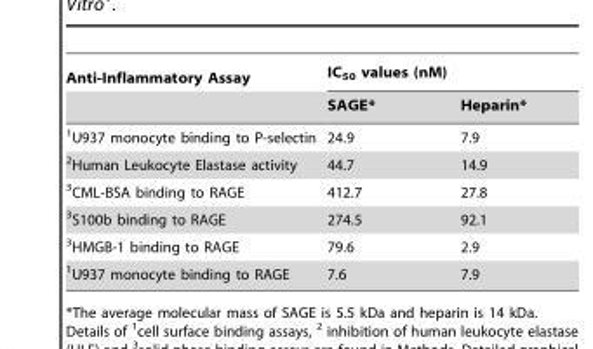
<table><thead><tr><td rowspan="2">Anti-Inflammatory Assay</td><td colspan="2">IC<sub>50</sub> values (nM)</td></tr><tr><td>SAGE*</td><td>Heparin*</td></tr></thead><tbody><tr><td>1U937 monocyte binding to P-selectin</td><td>24.9</td><td>7.9</td></tr><tr><td>2Human Leukocyte Elastase activity</td><td>44.7</td><td>14.9</td></tr><tr><td>3CML-BSA binding to RAGE</td><td>412.7</td><td>27.8</td></tr><tr><td>3S100b binding to RAGE</td><td>274.5</td><td>92.1</td></tr><tr><td>3HMGB-1 binding to RAGE</td><td>79.6</td><td>2.9</td></tr><tr><td>1U937 monocyte binding to RAGE</td><td>7.6</td><td>7.9</td></tr></tbody></table>